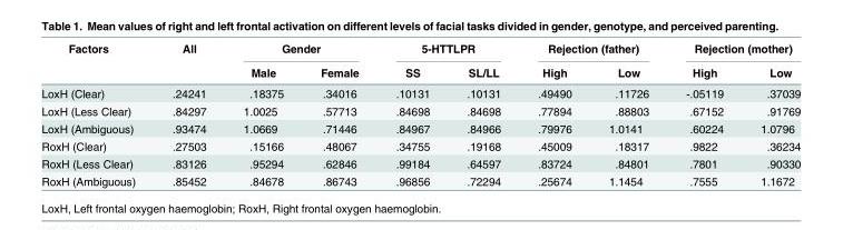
<table><thead><tr><td rowspan="2">Factors</td><td rowspan="2">All</td><td colspan="2">Gender</td><td colspan="2">5-HTTLPR</td><td colspan="2">Rejection (father)</td><td colspan="2">Rejection (mother)</td></tr><tr><td>Male</td><td>Female</td><td>SS</td><td>SL/LL</td><td>High</td><td>Low</td><td>High</td><td>Low</td></tr></thead><tbody><tr><td>LoxH (Clear)</td><td>.24241</td><td>.18375</td><td>.34016</td><td>.10131</td><td>.10131</td><td>.49490</td><td>.11726</td><td>-.05119</td><td>.37039</td></tr><tr><td>LoxH (Less Clear)</td><td>.84297</td><td>1.0025</td><td>.57713</td><td>.84698</td><td>.84698</td><td>.77894</td><td>.88803</td><td>.67152</td><td>.91769</td></tr><tr><td>LoxH (Ambiguous)</td><td>.93474</td><td>1.0669</td><td>.71446</td><td>.84967</td><td>.84966</td><td>.79976</td><td>1.0141</td><td>.60224</td><td>1.0796</td></tr><tr><td>RoxH (Clear)</td><td>.27503</td><td>.15166</td><td>.48067</td><td>.34755</td><td>.19168</td><td>.45009</td><td>.18317</td><td>.9822</td><td>.36234</td></tr><tr><td>RoxH (Less Clear)</td><td>.83126</td><td>.95294</td><td>.62846</td><td>.99184</td><td>.64597</td><td>.83724</td><td>.84801</td><td>.7801</td><td>.90330</td></tr><tr><td>RoxH (Ambiguous)</td><td>.85452</td><td>.84678</td><td>.86743</td><td>.96856</td><td>.72294</td><td>.25674</td><td>1.1454</td><td>.7555</td><td>1.1672</td></tr></tbody></table>